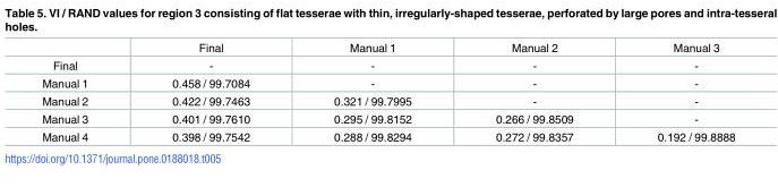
<table><thead><tr><td></td><td>Final</td><td>Manual 1</td><td>Manual 2</td><td>Manual 3</td></tr></thead><tbody><tr><td>Final</td><td>-</td><td>-</td><td>-</td><td>-</td></tr><tr><td>Manual 1</td><td>0.458 / 99.7084</td><td>-</td><td>-</td><td>-</td></tr><tr><td>Manual 2</td><td>0.422 / 99.7463</td><td>0.321 / 99.7995</td><td>-</td><td>-</td></tr><tr><td>Manual 3</td><td>0.401 / 99.7610</td><td>0.295 / 99.8152</td><td>0.266 / 99.8509</td><td>-</td></tr><tr><td>Manual 4</td><td>0.398 / 99.7542</td><td>0.288 / 99.8294</td><td>0.272 / 99.8357</td><td>0.192 / 99.8888</td></tr></tbody></table>